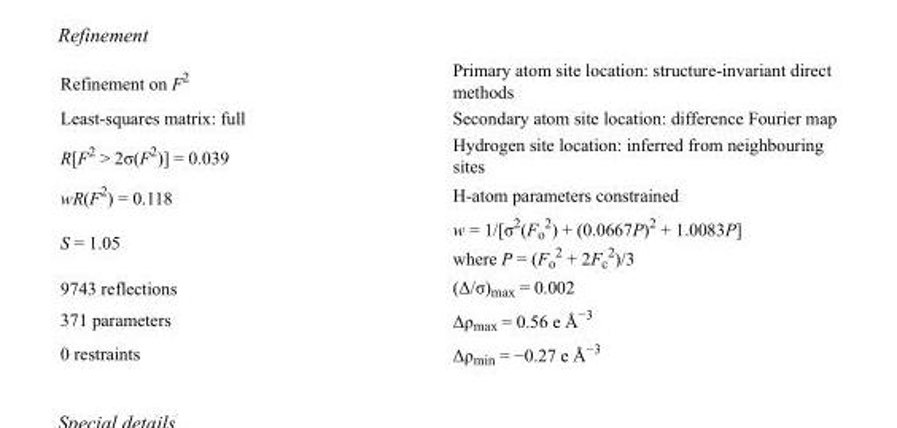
<table><tbody><tr><td>Refinement on F<sup>2</sup></td><td>Primary atom site location: structure-invariant direct methods</td></tr><tr><td>Least-squares matrix: full</td><td>Secondary atom site location: difference Fourier map</td></tr><tr><td>R[F<sup>2</sup> &gt; 2σ(F<sup>2</sup>)] = 0.039</td><td>Hydrogen site location: inferred from neighbouring sites</td></tr><tr><td>wR(F<sup>2</sup>) = 0.118</td><td>H-atom parameters constrained</td></tr><tr><td>S = 1.05</td><td>w = 1/[σ<sup>2</sup>(F<sub>o</sub> <sup>2</sup>) + (0.0667P)<sup>2</sup> + 1.0083P] where P = (F<sub>o</sub> <sup>2</sup> + 2F<sub>c</sub> <sup>2</sup>)/3</td></tr><tr><td>9743 reflections</td><td>(Δ/σ)<sub>max</sub> = 0.002</td></tr><tr><td>371 parameters</td><td>Δρ<sub>max</sub> = 0.56 e Å<sup>−3</sup></td></tr><tr><td>0 restraints</td><td>Δρ<sub>min</sub> = −0.27 e Å<sup>−3</sup></td></tr></tbody></table>